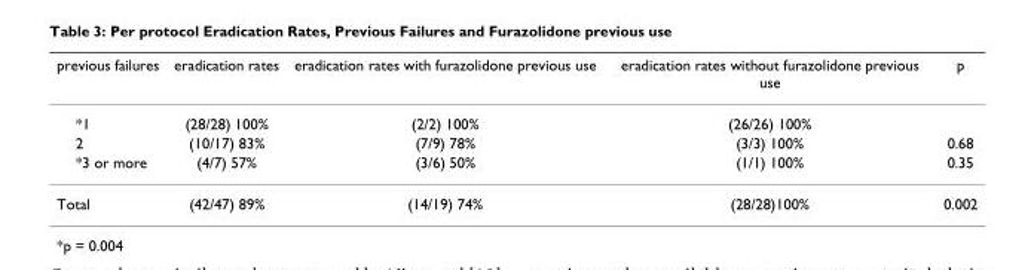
<table><thead><tr><td>previous failures</td><td>eradication rates</td><td>eradication rates with furazolidone previous use</td><td>eradication rates without furazolidone previous use</td><td>p</td></tr></thead><tbody><tr><td>*1</td><td>(28/28) 100%</td><td>(2/2) 100%</td><td>(26/26) 100%</td><td></td></tr><tr><td>2</td><td>(10/17) 83%</td><td>(7/9) 78%</td><td>(3/3) 100%</td><td>0.68</td></tr><tr><td>*3 or more</td><td>(4/7) 57%</td><td>(3/6) 50%</td><td>(1/1) 100%</td><td>0.35</td></tr><tr><td>Total</td><td>(42/47) 89%</td><td>(14/19) 74%</td><td>(28/28)100%</td><td>0.002</td></tr></tbody></table>